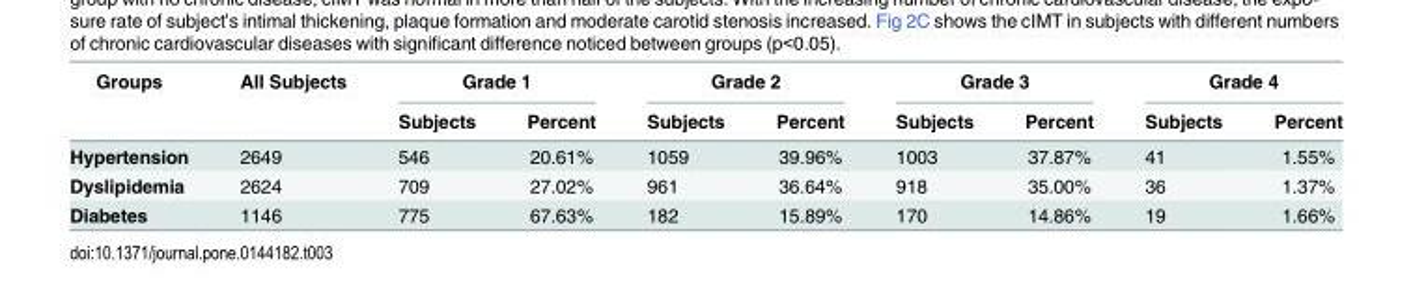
<table><thead><tr><td rowspan="2">Groups</td><td rowspan="2">All Subjects</td><td colspan="2">Grade 1</td><td colspan="2">Grade 2</td><td colspan="2">Grade 3</td><td colspan="2">Grade 4</td></tr><tr><td>Subjects</td><td>Percent</td><td>Subjects</td><td>Percent</td><td>Subjects</td><td>Percent</td><td>Subjects</td><td>Percent</td></tr></thead><tbody><tr><td>Hypertension</td><td>2649</td><td>546</td><td>20.61%</td><td>1059</td><td>39.96%</td><td>1003</td><td>37.87%</td><td>41</td><td>1.55%</td></tr><tr><td>Dyslipidemia</td><td>2624</td><td>709</td><td>27.02%</td><td>961</td><td>36.64%</td><td>918</td><td>35.00%</td><td>36</td><td>1.37%</td></tr><tr><td>Diabetes</td><td>1146</td><td>775</td><td>67.63%</td><td>182</td><td>15.89%</td><td>170</td><td>14.86%</td><td>19</td><td>1.66%</td></tr></tbody></table>